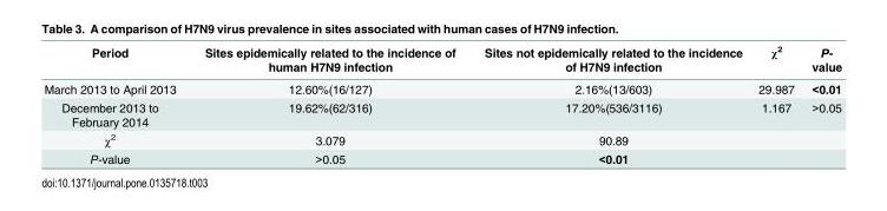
<table><thead><tr><td>Period</td><td>Sites epidemically related to the incidence of human H7N9 infection</td><td>Sites not epidemically related to the incidence of H7N9 infection</td><td>χ<sup>2</sup></td><td>P- value</td></tr></thead><tbody><tr><td>March 2013 to April 2013</td><td>12.60%(16/127)</td><td>2.16%(13/603)</td><td>29.987</td><td>&lt;0.01</td></tr><tr><td>December 2013 to February 2014</td><td>19.62%(62/316)</td><td>17.20%(536/3116)</td><td>1.167</td><td>&gt;0.05</td></tr><tr><td>χ<sup>2</sup></td><td>3.079</td><td>90.89</td><td></td><td></td></tr><tr><td>P-value</td><td>&gt;0.05</td><td>&lt;0.01</td><td></td><td></td></tr></tbody></table>